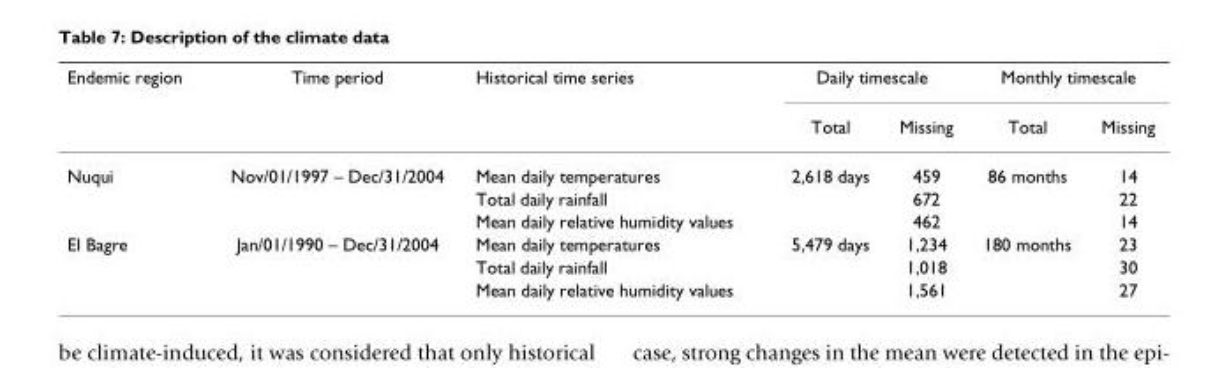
<table><thead><tr><td rowspan="2">Endemic region</td><td rowspan="2">Time period</td><td rowspan="2">Historical time series</td><td colspan="2">Daily timescale</td><td colspan="2">Monthly timescale</td></tr><tr><td>Total</td><td>Missing</td><td>Total</td><td>Missing</td></tr></thead><tbody><tr><td rowspan="3">Nuqui</td><td>Nov/01/1997 – Dec/31/2004</td><td>Mean daily temperatures</td><td>2,618 days</td><td>459</td><td>86 months</td><td>14</td></tr><tr><td></td><td>Total daily rainfall</td><td></td><td>672</td><td></td><td>22</td></tr><tr><td></td><td>Mean daily relative humidity values</td><td></td><td>462</td><td></td><td>14</td></tr><tr><td rowspan="3">El Bagre</td><td>Jan/01/1990 – Dec/31/2004</td><td>Mean daily temperatures</td><td>5,479 days</td><td>1,234</td><td>180 months</td><td>23</td></tr><tr><td></td><td>Total daily rainfall</td><td></td><td>1,018</td><td></td><td>30</td></tr><tr><td></td><td>Mean daily relative humidity values</td><td></td><td>1,561</td><td></td><td>27</td></tr></tbody></table>